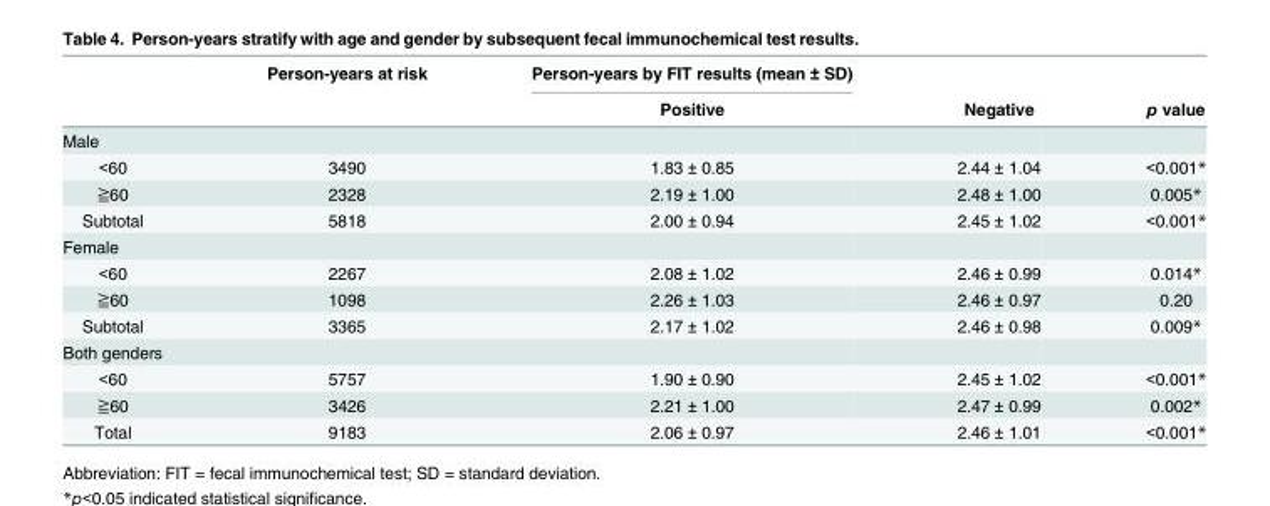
<table><thead><tr><td rowspan="2"></td><td rowspan="2">Person-years at risk</td><td rowspan="2">Person-years by FIT results (mean ± SD) Positive</td><td rowspan="2">Negative</td><td rowspan="2">p value</td></tr><tr></tr></thead><tbody><tr><td colspan="5">Male</td></tr><tr><td>&lt;60</td><td>3490</td><td>1.83 ± 0.85</td><td>2.44 ± 1.04</td><td>&lt;0.001*</td></tr><tr><td>≧60</td><td>2328</td><td>2.19 ± 1.00</td><td>2.48 ± 1.00</td><td>0.005*</td></tr><tr><td>Subtotal</td><td>5818</td><td>2.00 ± 0.94</td><td>2.45 ± 1.02</td><td>&lt;0.001*</td></tr><tr><td colspan="5">Female</td></tr><tr><td>&lt;60</td><td>2267</td><td>2.08 ± 1.02</td><td>2.46 ± 0.99</td><td>0.014*</td></tr><tr><td>≧60</td><td>1098</td><td>2.26 ± 1.03</td><td>2.46 ± 0.97</td><td>0.20</td></tr><tr><td>Subtotal</td><td>3365</td><td>2.17 ± 1.02</td><td>2.46 ± 0.98</td><td>0.009*</td></tr><tr><td colspan="5">Both genders</td></tr><tr><td>&lt;60</td><td>5757</td><td>1.90 ± 0.90</td><td>2.45 ± 1.02</td><td>&lt;0.001*</td></tr><tr><td>≧60</td><td>3426</td><td>2.21 ± 1.00</td><td>2.47 ± 0.99</td><td>0.002*</td></tr><tr><td>Total</td><td>9183</td><td>2.06 ± 0.97</td><td>2.46 ± 1.01</td><td>&lt;0.001*</td></tr></tbody></table>